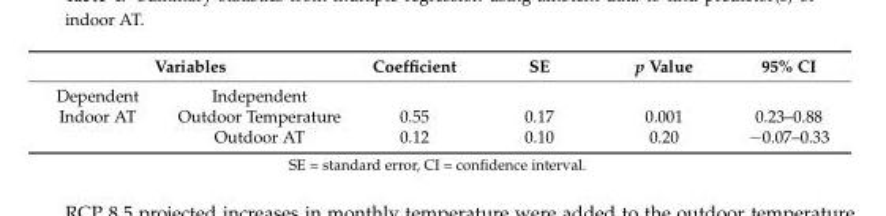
<table><thead><tr><td colspan="2">Variables</td><td rowspan="2">Coefficient</td><td rowspan="2">SE</td><td rowspan="2">p Value</td><td rowspan="2">95% CI</td></tr><tr><td>Dependent</td><td>Independent</td></tr></thead><tbody><tr><td rowspan="2">Indoor AT</td><td>Outdoor Temperature</td><td>0.55</td><td>0.17</td><td>0.001</td><td>0.23–0.88</td></tr><tr><td>Outdoor AT</td><td>0.12</td><td>0.10</td><td>0.20</td><td>−0.07–0.33</td></tr></tbody></table>